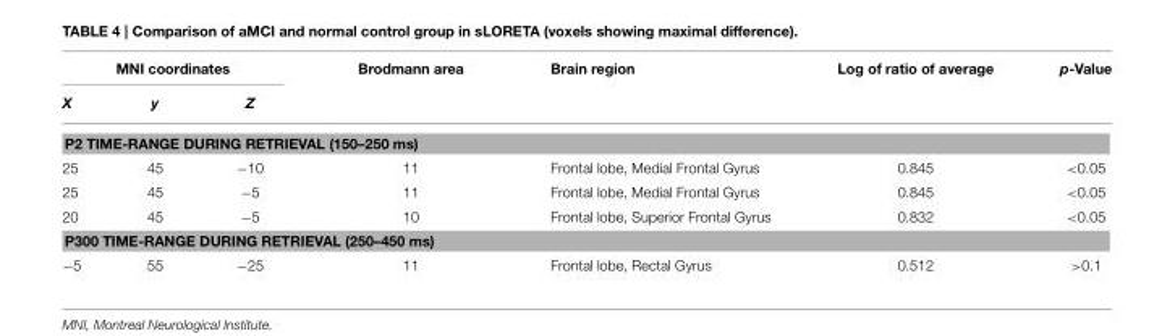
<table><thead><tr><td colspan="3">MNI coordinates</td><td rowspan="2">Brodmann area</td><td rowspan="2">Brain region</td><td rowspan="2">Log of ratio of average</td><td rowspan="2">p-Value</td></tr><tr><td>X</td><td>y</td><td>Z</td></tr></thead><tbody><tr><td colspan="7">P2 TIME-RANGE DURING RETRIEVAL (150–250 ms)</td></tr><tr><td>25</td><td>45</td><td>−10</td><td>11</td><td>Frontal lobe, Medial Frontal Gyrus</td><td>0.845</td><td>&lt;0.05</td></tr><tr><td>25</td><td>45</td><td>−5</td><td>11</td><td>Frontal lobe, Medial Frontal Gyrus</td><td>0.845</td><td>&lt;0.05</td></tr><tr><td>20</td><td>45</td><td>−5</td><td>10</td><td>Frontal lobe, Superior Frontal Gyrus</td><td>0.832</td><td>&lt;0.05</td></tr><tr><td colspan="7">P300 TIME-RANGE DURING RETRIEVAL (250–450 ms)</td></tr><tr><td>−5</td><td>55</td><td>−25</td><td>11</td><td>Frontal lobe, Rectal Gyrus</td><td>0.512</td><td>&gt;0.1</td></tr></tbody></table>